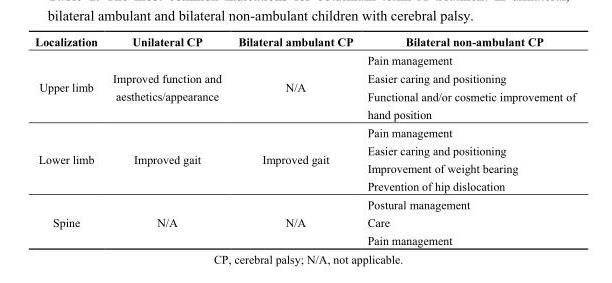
<table><thead><tr><td>Localization</td><td>Unilateral CP</td><td>Bilateral ambulant CP</td><td>Bilateral non-ambulant CP</td></tr></thead><tbody><tr><td rowspan="3">Upper limb</td><td rowspan="3">Improved function and aesthetics/appearance</td><td rowspan="3">N/A</td><td>Pain management</td></tr><tr><td>Easier caring and positioning</td></tr><tr><td>Functional and/or cosmetic improvement of hand position</td></tr><tr><td rowspan="4">Lower limb</td><td rowspan="4">Improved gait</td><td rowspan="4">Improved gait</td><td>Pain management</td></tr><tr><td>Easier caring and positioning</td></tr><tr><td>Improvement of weight bearing</td></tr><tr><td>Prevention of hip dislocation</td></tr><tr><td rowspan="3">Spine</td><td rowspan="3">N/A</td><td rowspan="3">N/A</td><td>Postural management</td></tr><tr><td>Care</td></tr><tr><td>Pain management</td></tr></tbody></table>